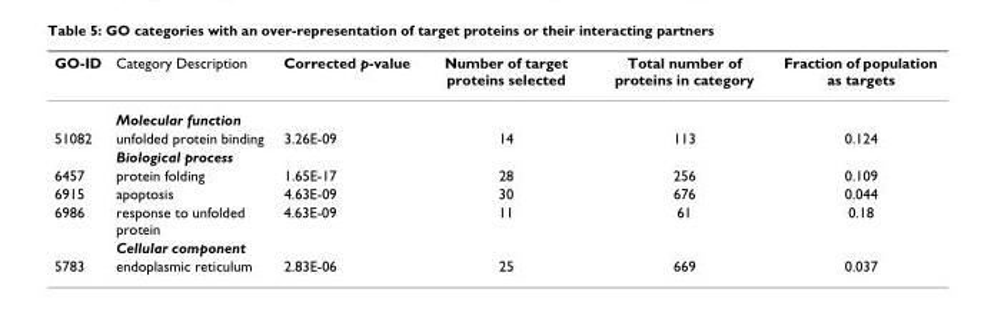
<table><thead><tr><td>GO-ID</td><td>Category Description</td><td>Corrected p-value</td><td>Number of target proteins selected</td><td>Total number of proteins in category</td><td>Fraction of population as targets</td></tr></thead><tbody><tr><td></td><td>Molecular function</td><td></td><td></td><td></td><td></td></tr><tr><td rowspan="2">51082</td><td>unfolded protein binding</td><td>3.26E-09</td><td>14</td><td>113</td><td>0.124</td></tr><tr><td>Biological process</td><td></td><td></td><td></td><td></td></tr><tr><td>6457</td><td>protein folding</td><td>1.65E-17</td><td>28</td><td>256</td><td>0.109</td></tr><tr><td>6915</td><td>apoptosis</td><td>4.63E-09</td><td>30</td><td>676</td><td>0.044</td></tr><tr><td rowspan="2">6986</td><td>response to unfolded protein</td><td>4.63E-09</td><td>11</td><td>61</td><td>0.18</td></tr><tr><td>Cellular component</td><td></td><td></td><td></td><td></td></tr><tr><td>5783</td><td>endoplasmic reticulum</td><td>2.83E-06</td><td>25</td><td>669</td><td>0.037</td></tr></tbody></table>